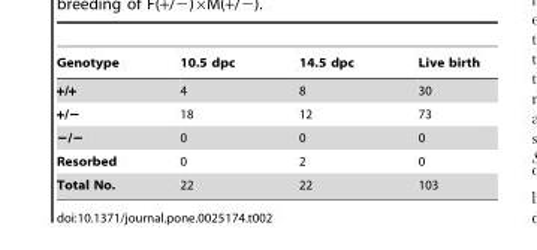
<table><thead><tr><td>Genotype</td><td>10.5 dpc</td><td>14.5 dpc</td><td>Live birth</td></tr></thead><tbody><tr><td>+/+</td><td>4</td><td>8</td><td>30</td></tr><tr><td>+/−</td><td>18</td><td>12</td><td>73</td></tr><tr><td>−/−</td><td>0</td><td>0</td><td>0</td></tr><tr><td>Resorbed</td><td>0</td><td>2</td><td>0</td></tr><tr><td>Total No.</td><td>22</td><td>22</td><td>103</td></tr></tbody></table>